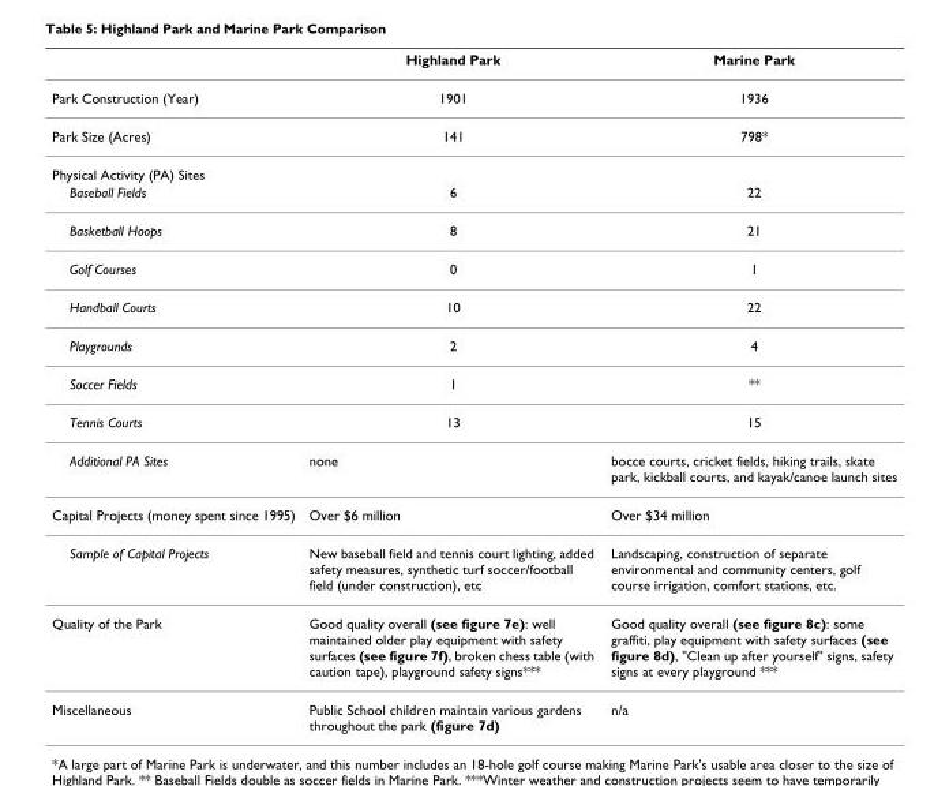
<table><thead><tr><td></td><td>Highland Park</td><td>Marine Park</td></tr></thead><tbody><tr><td>Park Construction (Year)</td><td>1901</td><td>1936</td></tr><tr><td>Park Size (Acres)</td><td>141</td><td>798*</td></tr><tr><td colspan="3">Physical Activity (PA) Sites</td></tr><tr><td>Baseball Fields</td><td>6</td><td>22</td></tr><tr><td>Basketball Hoops</td><td>8</td><td>21</td></tr><tr><td>Golf Courses</td><td>0</td><td>1</td></tr><tr><td>Handball Courts</td><td>10</td><td>22</td></tr><tr><td>Playgrounds</td><td>2</td><td>4</td></tr><tr><td>Soccer Fields</td><td>1</td><td>**</td></tr><tr><td>Tennis Courts</td><td>13</td><td>15</td></tr><tr><td>Additional PA Sites</td><td>none</td><td>bocce courts, cricket fields, hiking trails, skate park, kickball courts, and kayak/canoe launch sites</td></tr><tr><td>Capital Projects (money spent since 1995)</td><td>Over $6 million</td><td>Over $34 million</td></tr><tr><td>Sample of Capital Projects</td><td>New baseball field and tennis court lighting, added safety measures, synthetic turf soccer/football field (under construction), etc</td><td>Landscaping, construction of separate environmental and community centers, golf course irrigation, comfort stations, etc.</td></tr><tr><td>Quality of the Park</td><td>Good quality overall (see figure 7e): well maintained older play equipment with safety surfaces (see figure 7f), broken chess table (with caution tape), playground safety signs***</td><td>Good quality overall (see figure 8c): some graffiti, play equipment with safety surfaces (see figure 8d), &quot;Clean up after yourself&quot; signs, safety signs at every playground ***</td></tr><tr><td>Miscellaneous</td><td>Public School children maintain various gardens throughout the park (figure 7d)</td><td>n/a</td></tr></tbody></table>